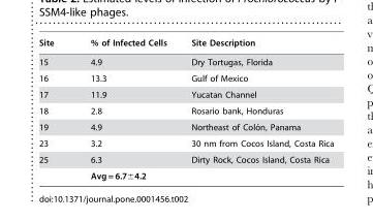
<table><thead><tr><td>Site</td><td>% of Infected Cells</td><td>Site Description</td></tr></thead><tbody><tr><td>15</td><td>4.9</td><td>Dry Tortugas, Florida</td></tr><tr><td>16</td><td>13.3</td><td>Gulf of Mexico</td></tr><tr><td>17</td><td>11.9</td><td>Yucatan Channel</td></tr><tr><td>18</td><td>2.8</td><td>Rosario bank, Honduras</td></tr><tr><td>19</td><td>4.9</td><td>Northeast of Colo´n, Panama</td></tr><tr><td>23</td><td>3.2</td><td>30 nm from Cocos Island, Costa Rica</td></tr><tr><td rowspan="2">25</td><td>6.3</td><td>Dirty Rock, Cocos Island, Costa Rica</td></tr><tr><td>Avg = 6.7±4.2</td><td></td></tr></tbody></table>